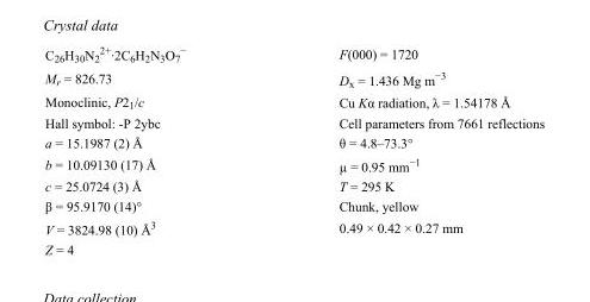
<table><tbody><tr><td>C<sub>26</sub>H<sub>30</sub>N<sub>2</sub> <sup>2+</sup>·2C<sub>6</sub>H<sub>2</sub>N<sub>3</sub>O<sub>7</sub> <sup>−</sup></td><td>F(000) = 1720</td></tr><tr><td>M<sub>r</sub> = 826.73</td><td>D<sub>x</sub> = 1.436 Mg m<sup>−3</sup></td></tr><tr><td>Monoclinic, P2<sub>1</sub>/c</td><td>Cu Kα radiation, λ = 1.54178 Å</td></tr><tr><td>Hall symbol: -P 2ybc</td><td>Cell parameters from 7661 reflections</td></tr><tr><td>a = 15.1987 (2) Å</td><td>θ = 4.8–73.3°</td></tr><tr><td>b = 10.09130 (17) Å</td><td>µ = 0.95 mm<sup>−1</sup></td></tr><tr><td>c = 25.0724 (3) Å</td><td>T = 295 K</td></tr><tr><td>β = 95.9170 (14)°</td><td>Chunk, yellow</td></tr><tr><td>V = 3824.98 (10) Å<sup>3</sup></td><td>0.49 × 0.42 × 0.27 mm</td></tr><tr><td>Z = 4</td><td></td></tr></tbody></table>